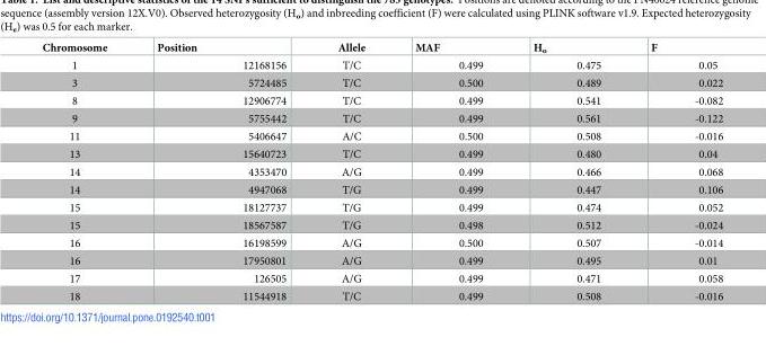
<table><thead><tr><td>Chromosome</td><td>Position</td><td>Allele</td><td>MAF</td><td>H<sub>o</sub></td><td>F</td></tr></thead><tbody><tr><td>1</td><td>12168156</td><td>T/C</td><td>0.499</td><td>0.475</td><td>0.05</td></tr><tr><td>3</td><td>5724485</td><td>T/C</td><td>0.500</td><td>0.489</td><td>0.022</td></tr><tr><td>8</td><td>12906774</td><td>T/C</td><td>0.499</td><td>0.541</td><td>-0.082</td></tr><tr><td>9</td><td>5755442</td><td>T/C</td><td>0.499</td><td>0.561</td><td>-0.122</td></tr><tr><td>11</td><td>5406647</td><td>A/C</td><td>0.500</td><td>0.508</td><td>-0.016</td></tr><tr><td>13</td><td>15640723</td><td>T/C</td><td>0.499</td><td>0.480</td><td>0.04</td></tr><tr><td>14</td><td>4353470</td><td>A/G</td><td>0.499</td><td>0.466</td><td>0.068</td></tr><tr><td>14</td><td>4947068</td><td>T/G</td><td>0.499</td><td>0.447</td><td>0.106</td></tr><tr><td>15</td><td>18127737</td><td>T/G</td><td>0.499</td><td>0.474</td><td>0.052</td></tr><tr><td>15</td><td>18567587</td><td>T/G</td><td>0.498</td><td>0.512</td><td>-0.024</td></tr><tr><td>16</td><td>16198599</td><td>A/G</td><td>0.500</td><td>0.507</td><td>-0.014</td></tr><tr><td>16</td><td>17950801</td><td>A/G</td><td>0.499</td><td>0.495</td><td>0.01</td></tr><tr><td>17</td><td>126505</td><td>A/G</td><td>0.499</td><td>0.471</td><td>0.058</td></tr><tr><td>18</td><td>11544918</td><td>T/C</td><td>0.499</td><td>0.508</td><td>-0.016</td></tr></tbody></table>